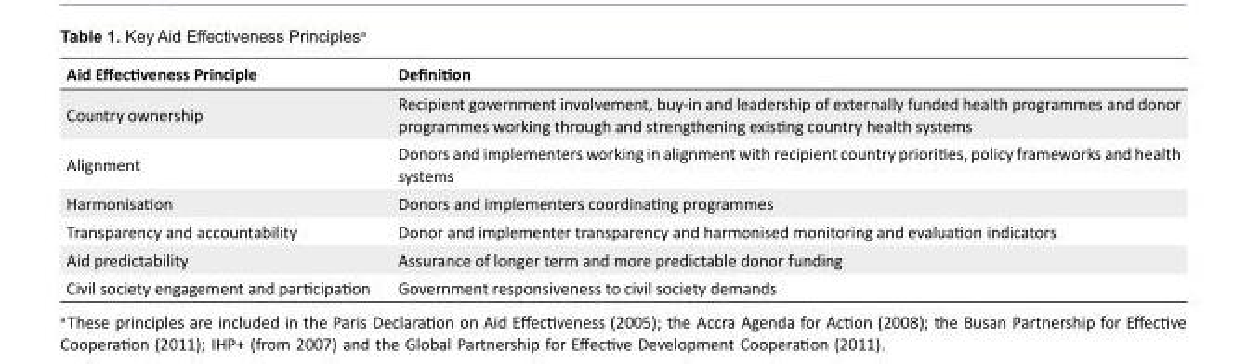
<table><tbody><tr><td>Aid Effectiveness Principle</td><td>Definition</td></tr><tr><td>Country ownership</td><td>Recipient government involvement, buy-in and leadership of externally funded health programmes and donor programmes working through and strengthening existing country health systems</td></tr><tr><td>Alignment</td><td>Donors and implementers working in alignment with recipient country priorities, policy frameworks and health systems</td></tr><tr><td>Harmonisation</td><td>Donors and implementers coordinating programmes</td></tr><tr><td>Transparency and accountability</td><td>Donor and implementer transparency and harmonised monitoring and evaluation indicators</td></tr><tr><td>Aid predictability</td><td>Assurance of longer term and more predictable donor funding</td></tr><tr><td>Civil society engagement and participation</td><td>Government responsiveness to civil society demands</td></tr></tbody></table>